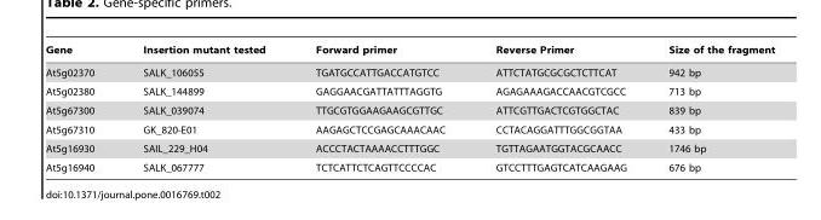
<table><thead><tr><td>Gene</td><td>Insertion mutant tested</td><td>Forward primer</td><td>Reverse Primer</td><td>Size of the fragment</td></tr></thead><tbody><tr><td>At5g02370</td><td>SALK_106055</td><td>TGATGCCATTGACCATGTCC</td><td>ATTCTATGCGCGCTCTTCAT</td><td>942 bp</td></tr><tr><td>At5g02380</td><td>SALK_144899</td><td>GAGGAACGATTATTTAGGTG</td><td>AGAGAAAGACCAACGTCGCC</td><td>713 bp</td></tr><tr><td>At5g67300</td><td>SALK_039074</td><td>TTGCGTGGAAGAAGCGTTGC</td><td>ATTCGTTGACTCGTGGCTAC</td><td>839 bp</td></tr><tr><td>At5g67310</td><td>GK_820-E01</td><td>AAGAGCTCCGAGCAAACAAC</td><td>CCTACAGGATTTGGCGGTAA</td><td>433 bp</td></tr><tr><td>At5g16930</td><td>SAIL_229_H04</td><td>ACCCTACTAAAACCTTTGGC</td><td>TGTTAGAATGGTACGCAACC</td><td>1746 bp</td></tr><tr><td>At5g16940</td><td>SALK_067777</td><td>TCTCATTCTCAGTTCCCCAC</td><td>GTCCTTTGAGTCATCAAGAAG</td><td>676 bp</td></tr></tbody></table>